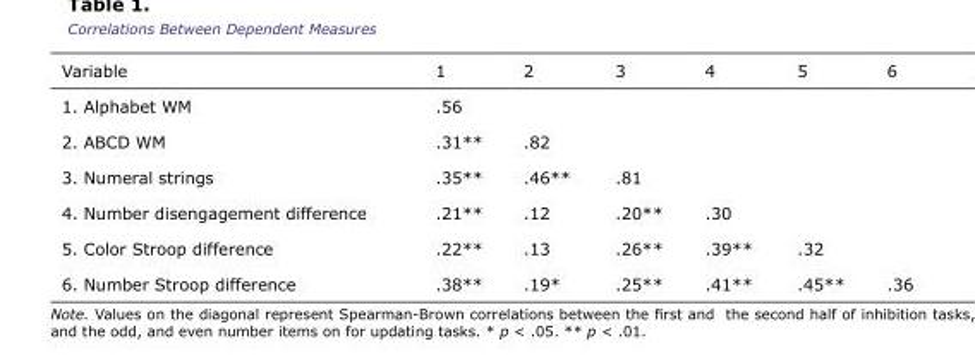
<table><thead><tr><td>Variable</td><td>1</td><td>2</td><td>3</td><td>4</td><td>5</td><td>6</td></tr></thead><tbody><tr><td>1. Alphabet WM</td><td>.56</td><td></td><td></td><td></td><td></td><td></td></tr><tr><td>2. ABCD WM</td><td>.31**</td><td>.82</td><td></td><td></td><td></td><td></td></tr><tr><td>3. Numeral strings</td><td>.35**</td><td>.46**</td><td>.81</td><td></td><td></td><td></td></tr><tr><td>4. Number disengagement difference</td><td>.21**</td><td>.12</td><td>.20**</td><td>.30</td><td></td><td></td></tr><tr><td>5. Color Stroop difference</td><td>.22**</td><td>.13</td><td>.26**</td><td>.39**</td><td>.32</td><td></td></tr><tr><td>6. Number Stroop difference</td><td>.38**</td><td>.19*</td><td>.25**</td><td>.41**</td><td>.45**</td><td>.36</td></tr></tbody></table>